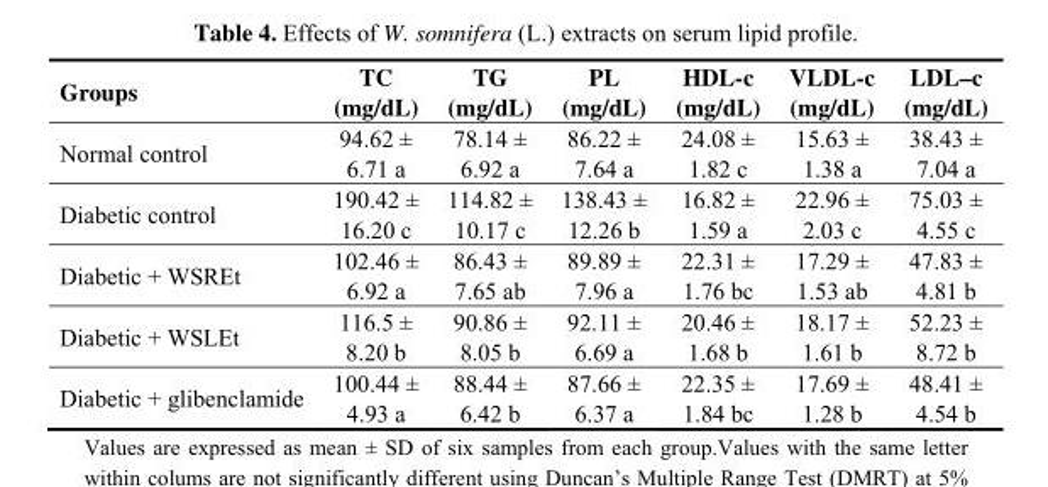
<table><thead><tr><td>Groups</td><td>TC (mg/dL)</td><td>TG (mg/dL)</td><td>PL (mg/dL)</td><td>HDL-c (mg/dL)</td><td>VLDL-c (mg/dL)</td><td>LDL–c (mg/dL)</td></tr></thead><tbody><tr><td>Normal control</td><td>94.62 ± 6.71 a</td><td>78.14 ± 6.92 a</td><td>86.22 ± 7.64 a</td><td>24.08 ± 1.82 c</td><td>15.63 ± 1.38 a</td><td>38.43 ± 7.04 a</td></tr><tr><td>Diabetic control</td><td>190.42 ± 16.20 c</td><td>114.82 ± 10.17 c</td><td>138.43 ± 12.26 b</td><td>16.82 ± 1.59 a</td><td>22.96 ± 2.03 c</td><td>75.03 ± 4.55 c</td></tr><tr><td>Diabetic + WSREt</td><td>102.46 ± 6.92 a</td><td>86.43 ± 7.65 ab</td><td>89.89 ± 7.96 a</td><td>22.31 ± 1.76 bc</td><td>17.29 ± 1.53 ab</td><td>47.83 ± 4.81 b</td></tr><tr><td>Diabetic + WSLEt</td><td>116.5 ± 8.20 b</td><td>90.86 ± 8.05 b</td><td>92.11 ± 6.69 a</td><td>20.46 ± 1.68 b</td><td>18.17 ± 1.61 b</td><td>52.23 ± 8.72 b</td></tr><tr><td>Diabetic + glibenclamide</td><td>100.44 ± 4.93 a</td><td>88.44 ± 6.42 b</td><td>87.66 ± 6.37 a</td><td>22.35 ± 1.84 bc</td><td>17.69 ± 1.28 b</td><td>48.41 ± 4.54 b</td></tr></tbody></table>